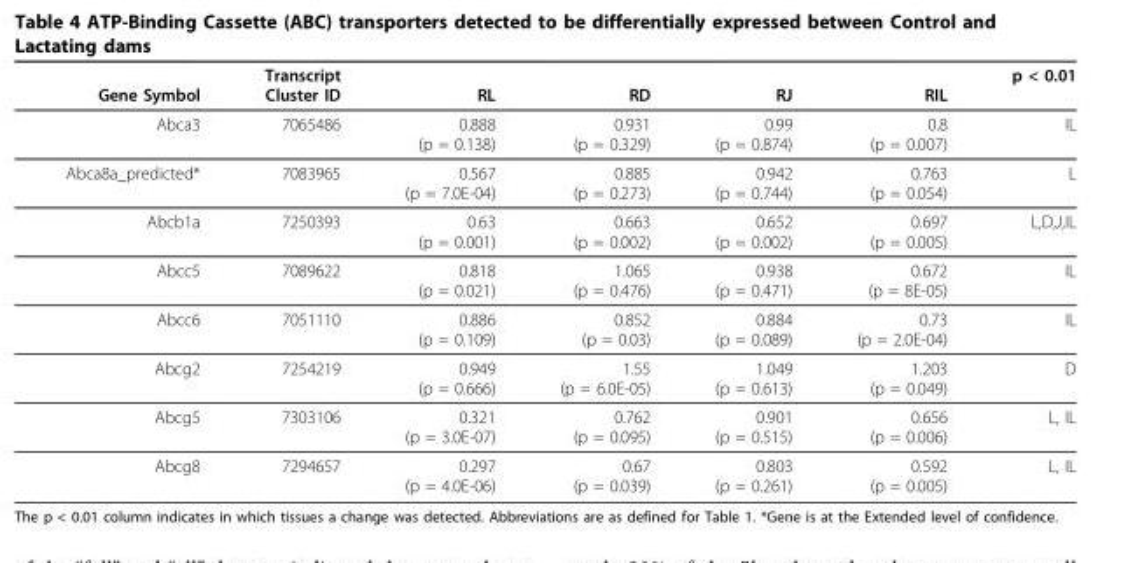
<table><thead><tr><td>Gene Symbol</td><td>Transcript Cluster ID</td><td>RL</td><td>RD</td><td>RJ</td><td>RIL</td><td>p &lt; 0.01</td></tr></thead><tbody><tr><td>Abca3</td><td>7065486</td><td>0.888 (p = 0.138)</td><td>0.931 (p = 0.329)</td><td>0.99 (p = 0.874)</td><td>0.8 (p = 0.007)</td><td>IL</td></tr><tr><td>Abca8a_predicted*</td><td>7083965</td><td>0.567 (p = 7.0E-04)</td><td>0.885 (p = 0.273)</td><td>0.942 (p = 0.744)</td><td>0.763 (p = 0.054)</td><td>L</td></tr><tr><td>Abcb1a</td><td>7250393</td><td>0.63 (p = 0.001)</td><td>0.663 (p = 0.002)</td><td>0.652 (p = 0.002)</td><td>0.697 (p = 0.005)</td><td>L,D,J,IL</td></tr><tr><td>Abcc5</td><td>7089622</td><td>0.818 (p = 0.021)</td><td>1.065 (p = 0.476)</td><td>0.938 (p = 0.471)</td><td>0.672 (p = 8E-05)</td><td>IL</td></tr><tr><td>Abcc6</td><td>7051110</td><td>0.886 (p = 0.109)</td><td>0.852 (p = 0.03)</td><td>0.884 (p = 0.089)</td><td>0.73 (p = 2.0E-04)</td><td>IL</td></tr><tr><td>Abcg2</td><td>7254219</td><td>0.949 (p = 0.666)</td><td>1.55 (p = 6.0E-05)</td><td>1.049 (p = 0.613)</td><td>1.203 (p = 0.049)</td><td>D</td></tr><tr><td>Abcg5</td><td>7303106</td><td>0.321 (p = 3.0E-07)</td><td>0.762 (p = 0.095)</td><td>0.901 (p = 0.515)</td><td>0.656 (p = 0.006)</td><td>L, IL</td></tr><tr><td>Abcg8</td><td>7294657</td><td>0.297 (p = 4.0E-06)</td><td>0.67 (p = 0.039)</td><td>0.803 (p = 0.261)</td><td>0.592 (p = 0.005)</td><td>L, IL</td></tr></tbody></table>